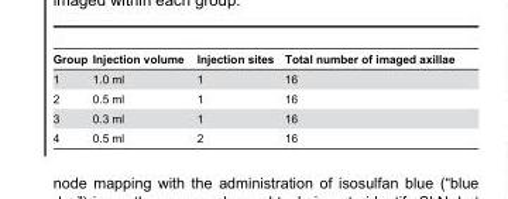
<table><thead><tr><td>Group</td><td>Injection volume</td><td>Injection sites</td><td>Total number of imaged axillae</td></tr></thead><tbody><tr><td>1</td><td>1.0 ml</td><td>1</td><td>16</td></tr><tr><td>2</td><td>0.5 ml</td><td>1</td><td>16</td></tr><tr><td>3</td><td>0.3 ml</td><td>1</td><td>16</td></tr><tr><td>4</td><td>0.5 ml</td><td>2</td><td>16</td></tr></tbody></table>